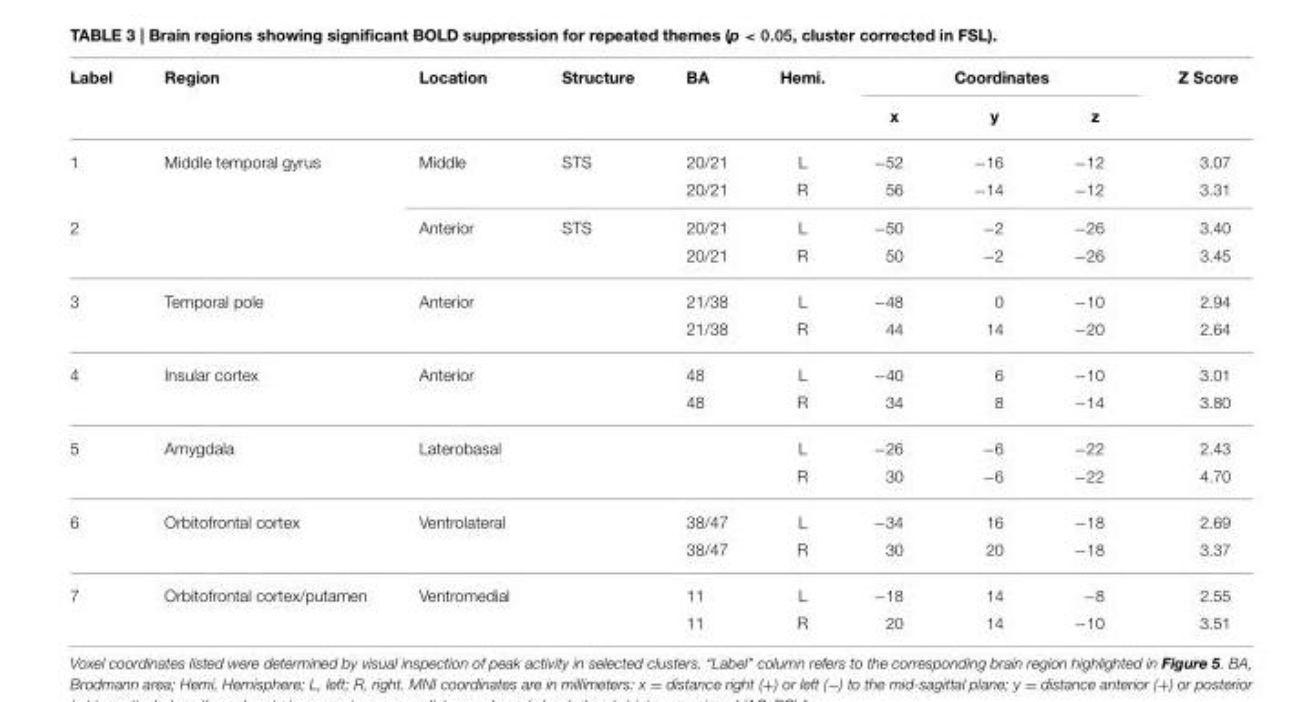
<table><thead><tr><td rowspan="2">Label</td><td rowspan="2">Region</td><td rowspan="2">Location</td><td rowspan="2">Structure</td><td rowspan="2">BA</td><td rowspan="2">Hemi.</td><td colspan="3">Coordinates</td><td rowspan="2">Z Score</td></tr><tr><td>x</td><td>y</td><td>z</td></tr></thead><tbody><tr><td rowspan="2">1</td><td>Middle temporal gyrus</td><td>Middle</td><td>STS</td><td>20/21</td><td>L</td><td>−52</td><td>−16</td><td>−12</td><td>3.07</td></tr><tr><td></td><td></td><td></td><td>20/21</td><td>R</td><td>56</td><td>−14</td><td>−12</td><td>3.31</td></tr><tr><td rowspan="2">2</td><td></td><td>Anterior</td><td>STS</td><td>20/21</td><td>L</td><td>−50</td><td>−2</td><td>−26</td><td>3.40</td></tr><tr><td></td><td></td><td></td><td>20/21</td><td>R</td><td>50</td><td>−2</td><td>−26</td><td>3.45</td></tr><tr><td rowspan="2">3</td><td>Temporal pole</td><td>Anterior</td><td></td><td>21/38</td><td>L</td><td>−48</td><td>0</td><td>−10</td><td>2.94</td></tr><tr><td></td><td></td><td></td><td>21/38</td><td>R</td><td>44</td><td>14</td><td>−20</td><td>2.64</td></tr><tr><td rowspan="2">4</td><td>Insular cortex</td><td>Anterior</td><td></td><td>48</td><td>L</td><td>−40</td><td>6</td><td>−10</td><td>3.01</td></tr><tr><td></td><td></td><td></td><td>48</td><td>R</td><td>34</td><td>8</td><td>−14</td><td>3.80</td></tr><tr><td rowspan="2">5</td><td>Amygdala</td><td>Laterobasal</td><td></td><td></td><td>L</td><td>−26</td><td>−6</td><td>−22</td><td>2.43</td></tr><tr><td></td><td></td><td></td><td></td><td>R</td><td>30</td><td>−6</td><td>−22</td><td>4.70</td></tr><tr><td rowspan="2">6</td><td>Orbitofrontal cortex</td><td>Ventrolateral</td><td></td><td>38/47</td><td>L</td><td>−34</td><td>16</td><td>−18</td><td>2.69</td></tr><tr><td></td><td></td><td></td><td>38/47</td><td>R</td><td>30</td><td>20</td><td>−18</td><td>3.37</td></tr><tr><td rowspan="2">7</td><td>Orbitofrontal cortex/putamen</td><td>Ventromedial</td><td></td><td>11</td><td>L</td><td>−18</td><td>14</td><td>−8</td><td>2.55</td></tr><tr><td></td><td></td><td></td><td>11</td><td>R</td><td>20</td><td>14</td><td>−10</td><td>3.51</td></tr></tbody></table>